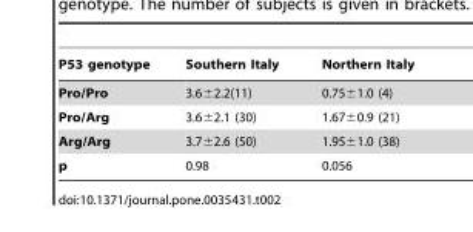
<table><thead><tr><td>P53 genotype</td><td>Southern Italy</td><td>Northern Italy</td></tr></thead><tbody><tr><td>Pro/Pro</td><td>3.6±2.2(11)</td><td>0.75±1.0 (4)</td></tr><tr><td>Pro/Arg</td><td>3.6±2.1 (30)</td><td>1.67±0.9 (21)</td></tr><tr><td>Arg/Arg</td><td>3.7±2.6 (50)</td><td>1.95±1.0 (38)</td></tr><tr><td>p</td><td>0.98</td><td>0.056</td></tr></tbody></table>